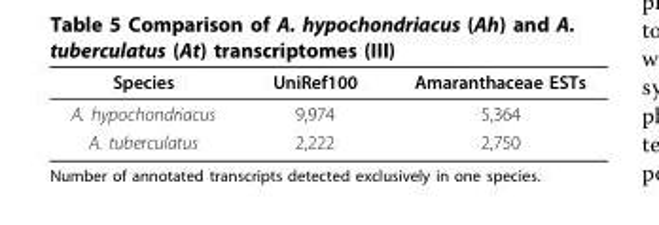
<table><thead><tr><td>Species</td><td>UniRef100</td><td>Amaranthaceae ESTs</td></tr></thead><tbody><tr><td>A. hypochondriacus</td><td>9,974</td><td>5,364</td></tr><tr><td>A. tuberculatus</td><td>2,222</td><td>2,750</td></tr></tbody></table>